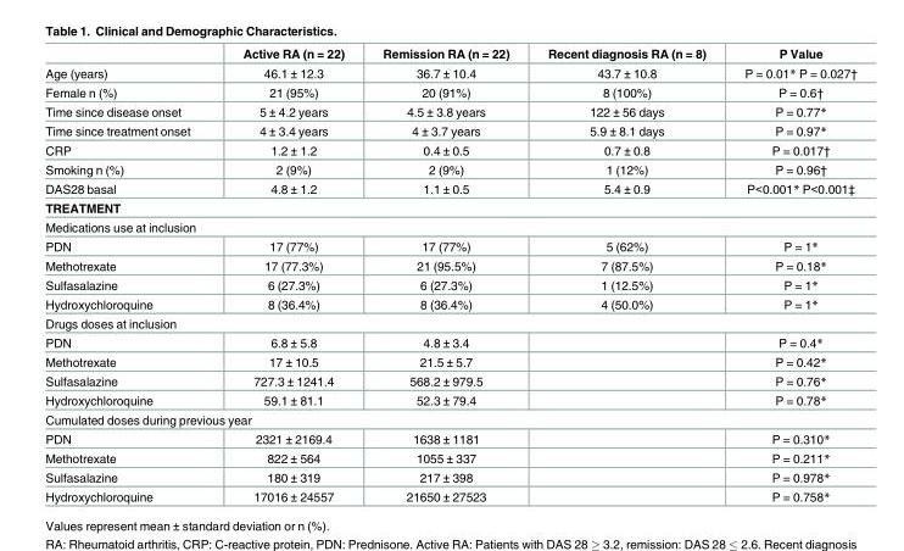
<table><thead><tr><td></td><td>Active RA (n = 22)</td><td>Remission RA (n = 22)</td><td>Recent diagnosis RA (n = 8)</td><td>P Value</td></tr></thead><tbody><tr><td>Age (years)</td><td>46.1 ± 12.3</td><td>36.7 ± 10.4</td><td>43.7 ± 10.8</td><td>P = 0.01* P = 0.027†</td></tr><tr><td>Female n (%)</td><td>21 (95%)</td><td>20 (91%)</td><td>8 (100%)</td><td>P = 0.6†</td></tr><tr><td>Time since disease onset</td><td>5 ± 4.2 years</td><td>4.5 ± 3.8 years</td><td>122 ± 56 days</td><td>P = 0.77*</td></tr><tr><td>Time since treatment onset</td><td>4 ± 3.4 years</td><td>4 ± 3.7 years</td><td>5.9 ± 8.1 days</td><td>P = 0.97*</td></tr><tr><td>CRP</td><td>1.2 ± 1.2</td><td>0.4 ± 0.5</td><td>0.7 ± 0.8</td><td>P = 0.017†</td></tr><tr><td>Smoking n (%)</td><td>2 (9%)</td><td>2 (9%)</td><td>1 (12%)</td><td>P = 0.96†</td></tr><tr><td>DAS28 basal</td><td>4.8 ± 1.2</td><td>1.1 ± 0.5</td><td>5.4 ± 0.9</td><td>P&lt;0.001* P&lt;0.001‡</td></tr><tr><td colspan="5">TREATMENT</td></tr><tr><td colspan="5">Medications use at inclusion</td></tr><tr><td>PDN</td><td>17 (77%)</td><td>17 (77%)</td><td>5 (62%)</td><td>P = 1*</td></tr><tr><td>Methotrexate</td><td>17 (77.3%)</td><td>21 (95.5%)</td><td>7 (87.5%)</td><td>P = 0.18*</td></tr><tr><td>Sulfasalazine</td><td>6 (27.3%)</td><td>6 (27.3%)</td><td>1 (12.5%)</td><td>P = 1*</td></tr><tr><td>Hydroxychloroquine</td><td>8 (36.4%)</td><td>8 (36.4%)</td><td>4 (50.0%)</td><td>P = 1*</td></tr><tr><td colspan="5">Drugs doses at inclusion</td></tr><tr><td>PDN</td><td>6.8 ± 5.8</td><td>4.8 ± 3.4</td><td></td><td>P = 0.4*</td></tr><tr><td>Methotrexate</td><td>17 ± 10.5</td><td>21.5 ± 5.7</td><td></td><td>P = 0.42*</td></tr><tr><td>Sulfasalazine</td><td>727.3 ± 1241.4</td><td>568.2 ± 979.5</td><td></td><td>P = 0.76*</td></tr><tr><td>Hydroxychloroquine</td><td>59.1 ± 81.1</td><td>52.3 ± 79.4</td><td></td><td>P = 0.78*</td></tr><tr><td colspan="5">Cumulated doses during previous year</td></tr><tr><td>PDN</td><td>2321 ± 2169.4</td><td>1638 ± 1181</td><td></td><td>P = 0.310*</td></tr><tr><td>Methotrexate</td><td>822 ± 564</td><td>1055 ± 337</td><td></td><td>P = 0.211*</td></tr><tr><td>Sulfasalazine</td><td>180 ± 319</td><td>217 ± 398</td><td></td><td>P = 0.978*</td></tr><tr><td>Hydroxychloroquine</td><td>17016 ± 24557</td><td>21650 ± 27523</td><td></td><td>P = 0.758*</td></tr></tbody></table>